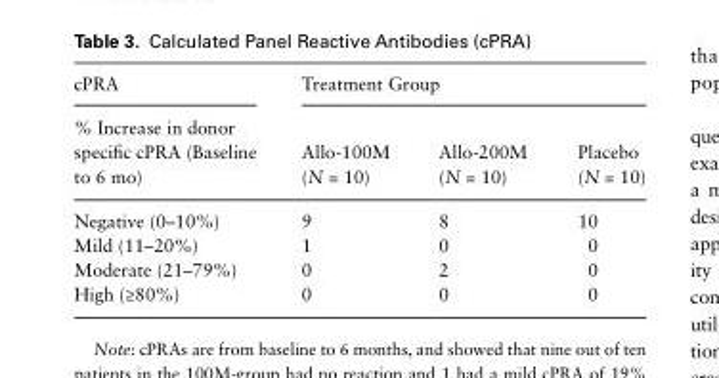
<table><thead><tr><td rowspan="2">cPRA % Increase in donor specific cPRA (Baseline to 6 mo)</td><td colspan="3">Treatment Group</td></tr><tr><td>Allo-100M (N = 10)</td><td>Allo-200M (N = 10)</td><td>Placebo (N = 10)</td></tr></thead><tbody><tr><td>Negative (0–10%)</td><td>9</td><td>8</td><td>10</td></tr><tr><td>Mild (11–20%)</td><td>1</td><td>0</td><td>0</td></tr><tr><td>Moderate (21–79%)</td><td>0</td><td>2</td><td>0</td></tr><tr><td>High (≥80%)</td><td>0</td><td>0</td><td>0</td></tr></tbody></table>